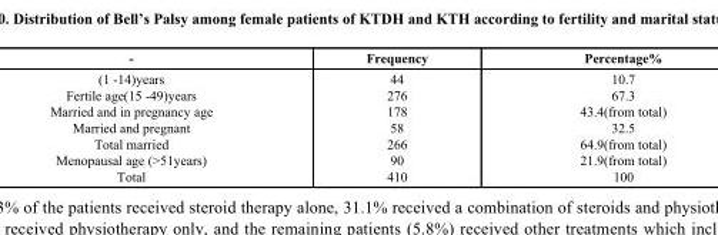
<table><thead><tr><td>-</td><td>Frequency</td><td>Percentage%</td></tr></thead><tbody><tr><td>(1 -14)years Fertile age(15 -49)years Married and in pregnancy age Married and pregnant Total married Menopausal age (&gt;51years) Total</td><td>44 276 178 58 266 90 410</td><td>10.7 67.3 43.4(from total) 32.5 64.9(from total) 21.9(from total) 100</td></tr></tbody></table>